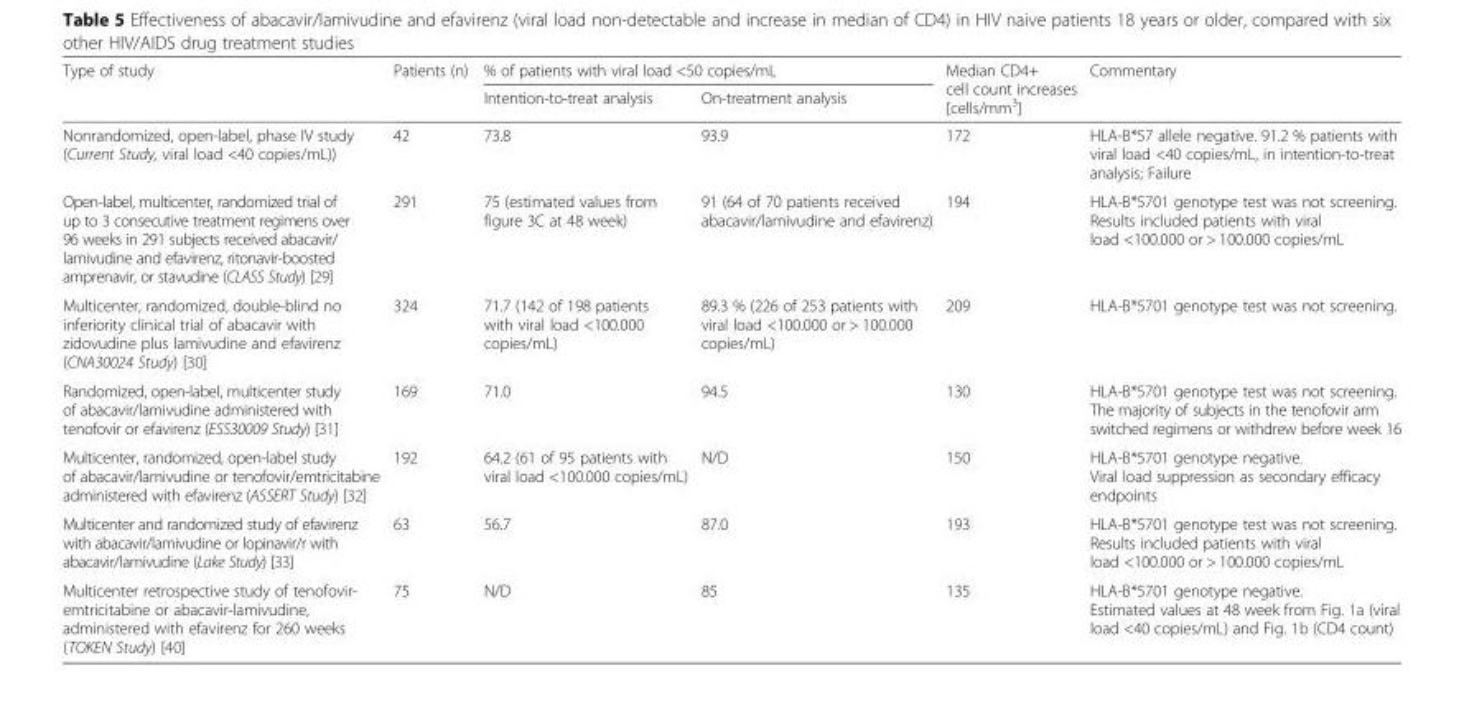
<table><thead><tr><td rowspan="2">Type of study</td><td rowspan="2">Patients (n)</td><td colspan="2">% of patients with viral load &lt;50 copies/mL</td><td rowspan="2">Median CD4+ cell count increases [cells/mm<sup>3</sup>]</td><td rowspan="2">Commentary</td></tr><tr><td>Intention-to-treat analysis</td><td>On-treatment analysis</td></tr></thead><tbody><tr><td>Nonrandomized, open-label, phase IV study (Current Study, viral load &lt;40 copies/mL))</td><td>42</td><td>73.8</td><td>93.9</td><td>172</td><td>HLA-B*57 allele negative. 91.2 % patients with viral load &lt;40 copies/mL, in intention-to-treat analysis; Failure</td></tr><tr><td>Open-label, multicenter, randomized trial of up to 3 consecutive treatment regimens over 96 weeks in 291 subjects received abacavir/ lamivudine and efavirenz, ritonavir-boosted amprenavir, or stavudine (CLASS Study) [29]</td><td>291</td><td>75 (estimated values from figure 3C at 48 week)</td><td>91 (64 of 70 patients received abacavir/lamivudine and efavirenz)</td><td>194</td><td>HLA-B*5701 genotype test was not screening. Results included patients with viral load &lt;100.000 or &gt; 100.000 copies/mL</td></tr><tr><td>Multicenter, randomized, double-blind no inferiority clinical trial of abacavir with zidovudine plus lamivudine and efavirenz (CNA30024 Study) [30]</td><td>324</td><td>71.7 (142 of 198 patients with viral load &lt;100.000 copies/mL)</td><td>89.3 % (226 of 253 patients with viral load &lt;100.000 or &gt; 100.000 copies/mL)</td><td>209</td><td>HLA-B*5701 genotype test was not screening.</td></tr><tr><td>Randomized, open-label, multicenter study of abacavir/lamivudine administered with tenofovir or efavirenz (ESS30009 Study) [31]</td><td>169</td><td>71.0</td><td>94.5</td><td>130</td><td>HLA-B*5701 genotype test was not screening. The majority of subjects in the tenofovir arm switched regimens or withdrew before week 16</td></tr><tr><td>Multicenter, randomized, open-label study of abacavir/lamivudine or tenofovir/emtricitabine administered with efavirenz (ASSERT Study) [32]</td><td>192</td><td>64.2 (61 of 95 patients with viral load &lt;100.000 copies/mL)</td><td>N/D</td><td>150</td><td>HLA-B*5701 genotype negative. Viral load suppression as secondary efficacy endpoints</td></tr><tr><td>Multicenter and randomized study of efavirenz with abacavir/lamivudine or lopinavir/r with abacavir/lamivudine (Lake Study) [33]</td><td>63</td><td>56.7</td><td>87.0</td><td>193</td><td>HLA-B*5701 genotype test was not screening. Results included patients with viral load &lt;100.000 or &gt; 100.000 copies/mL</td></tr><tr><td>Multicenter retrospective study of tenofovir- emtricitabine or abacavir-lamivudine, administered with efavirenz for 260 weeks (TOKEN Study) [40]</td><td>75</td><td>N/D</td><td>85</td><td>135</td><td>HLA-B*5701 genotype negative. Estimated values at 48 week from Fig. 1a (viral load &lt;40 copies/mL) and Fig. 1b (CD4 count)</td></tr></tbody></table>